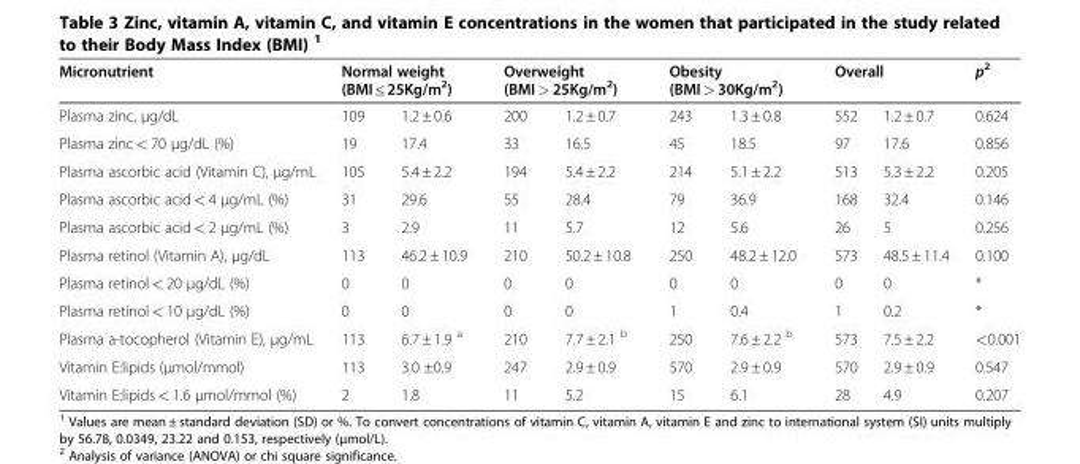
<table><thead><tr><td rowspan="2">Micronutrient Plasma zinc, μg/dL</td><td colspan="2">Normal weight (BMI ≤ 25Kg/m<sup>2</sup>)</td><td colspan="2">Overweight (BMI &gt; 25Kg/m<sup>2</sup>)</td><td colspan="2">Obesity (BMI &gt; 30Kg/m<sup>2</sup>)</td><td colspan="2">Overall</td><td rowspan="2">p<sup>2</sup> 0.624</td></tr><tr><td>109</td><td>1.2 ± 0.6</td><td>200</td><td>1.2 ± 0.7</td><td>243</td><td>1.3 ± 0.8</td><td>552</td><td>1.2 ± 0.7</td></tr></thead><tbody><tr><td>Plasma zinc &lt; 70 μg/dL (%)</td><td>19</td><td>17.4</td><td>33</td><td>16.5</td><td>45</td><td>18.5</td><td>97</td><td>17.6</td><td>0.856</td></tr><tr><td>Plasma ascorbic acid (Vitamin C), μg/mL</td><td>105</td><td>5.4 ± 2.2</td><td>194</td><td>5.4 ± 2.2</td><td>214</td><td>5.1 ± 2.2</td><td>513</td><td>5.3 ± 2.2</td><td>0.205</td></tr><tr><td>Plasma ascorbic acid &lt; 4 μg/mL (%)</td><td>31</td><td>29.6</td><td>55</td><td>28.4</td><td>79</td><td>36.9</td><td>168</td><td>32.4</td><td>0.146</td></tr><tr><td>Plasma ascorbic acid &lt; 2 μg/mL (%)</td><td>3</td><td>2.9</td><td>11</td><td>5.7</td><td>12</td><td>5.6</td><td>26</td><td>5</td><td>0.256</td></tr><tr><td>Plasma retinol (Vitamin A), μg/dL</td><td>113</td><td>46.2 ± 10.9</td><td>210</td><td>50.2 ± 10.8</td><td>250</td><td>48.2 ± 12.0</td><td>573</td><td>48.5 ± 11.4</td><td>0.100</td></tr><tr><td>Plasma retinol &lt; 20 μg/dL (%)</td><td>0</td><td>0</td><td>0</td><td>0</td><td>0</td><td>0</td><td>0</td><td>0</td><td>*</td></tr><tr><td>Plasma retinol &lt; 10 μg/dL (%)</td><td>0</td><td>0</td><td>0</td><td>0</td><td>1</td><td>0.4</td><td>1</td><td>0.2</td><td>*</td></tr><tr><td>Plasma a-tocopherol (Vitamin E), μg/mL</td><td>113</td><td>6.7 ± 1.9 <sup>a</sup></td><td>210</td><td>7.7 ± 2.1 <sup>b</sup></td><td>250</td><td>7.6 ± 2.2 <sup>b</sup></td><td>573</td><td>7.5 ± 2.2</td><td>&lt;0.001</td></tr><tr><td>Vitamin E:lipids (μmol/mmol)</td><td>113</td><td>3.0 ±0.9</td><td>247</td><td>2.9 ± 0.9</td><td>570</td><td>2.9 ± 0.9</td><td>570</td><td>2.9 ± 0.9</td><td>0.547</td></tr><tr><td>Vitamin E:lipids &lt; 1.6 μmol/mmol (%)</td><td>2</td><td>1.8</td><td>11</td><td>5.2</td><td>15</td><td>6.1</td><td>28</td><td>4.9</td><td>0.207</td></tr></tbody></table>